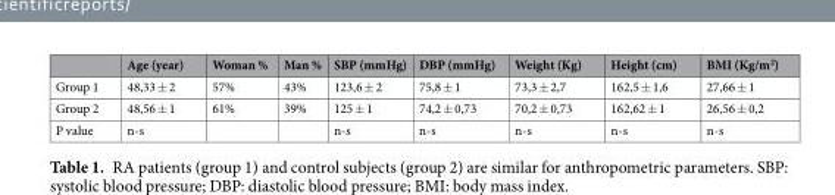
<table><thead><tr><td></td><td>Age (year)</td><td>Woman %</td><td>Man %</td><td>SBP (mmHg)</td><td>DBP (mmHg)</td><td>Weight (Kg)</td><td>Height (cm)</td><td>BMI (Kg/m<sup>2</sup>)</td></tr></thead><tbody><tr><td>Group 1</td><td>48,33 ± 2</td><td>57%</td><td>43%</td><td>123,6 ± 2</td><td>75,8 ± 1</td><td>73,3 ± 2,7</td><td>162,5 ± 1,6</td><td>27,66 ± 1</td></tr><tr><td>Group 2</td><td>48,56 ± 1</td><td>61%</td><td>39%</td><td>125 ± 1</td><td>74,2 ± 0,73</td><td>70,2 ± 0,73</td><td>162,62 ± 1</td><td>26,56 ± 0,2</td></tr><tr><td>P value</td><td>n-s</td><td></td><td></td><td>n-s</td><td>n-s</td><td>n-s</td><td>n-s</td><td>n-s</td></tr></tbody></table>